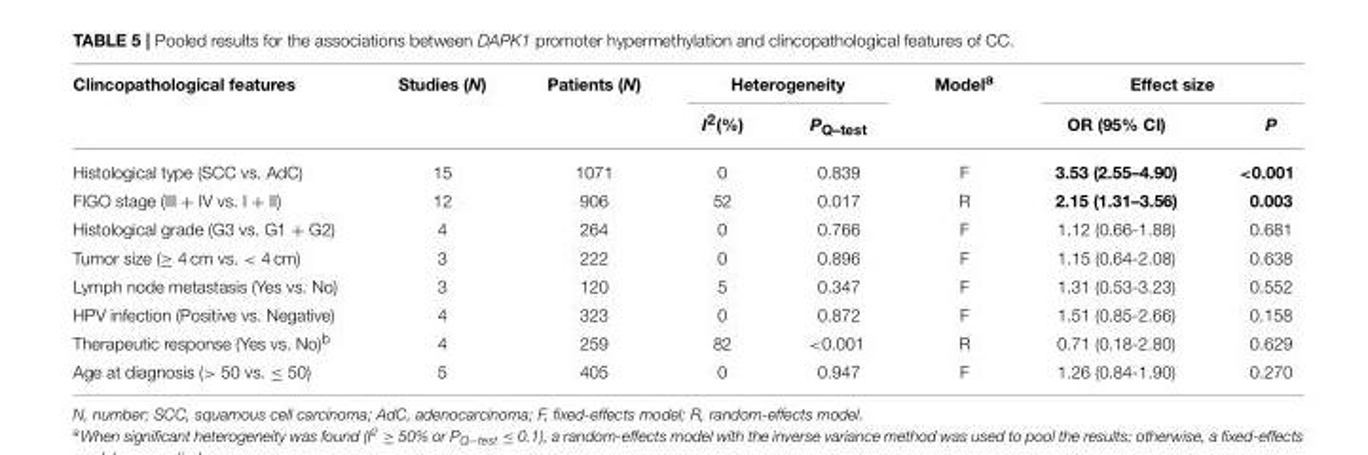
<table><thead><tr><td rowspan="2">Clincopathological features</td><td rowspan="2">Studies (N)</td><td rowspan="2">Patients (N)</td><td colspan="2">Heterogeneity</td><td rowspan="2">Model<sup>a</sup></td><td colspan="2">Effect size</td></tr><tr><td>I<sup>2</sup>(%)</td><td>P<sub>Q–test</sub></td><td>OR (95% CI)</td><td>P</td></tr></thead><tbody><tr><td>Histological type (SCC vs. AdC)</td><td>15</td><td>1071</td><td>0</td><td>0.839</td><td>F</td><td>3.53 (2.55–4.90)</td><td>&lt;0.001</td></tr><tr><td>FIGO stage (III + IV vs. I + II)</td><td>12</td><td>906</td><td>52</td><td>0.017</td><td>R</td><td>2.15 (1.31–3.56)</td><td>0.003</td></tr><tr><td>Histological grade (G3 vs. G1 + G2)</td><td>4</td><td>264</td><td>0</td><td>0.766</td><td>F</td><td>1.12 (0.66-1.88)</td><td>0.681</td></tr><tr><td>Tumor size (≥ 4 cm vs. &lt; 4 cm)</td><td>3</td><td>222</td><td>0</td><td>0.896</td><td>F</td><td>1.15 (0.64-2.08)</td><td>0.638</td></tr><tr><td>Lymph node metastasis (Yes vs. No)</td><td>3</td><td>120</td><td>5</td><td>0.347</td><td>F</td><td>1.31 (0.53-3.23)</td><td>0.552</td></tr><tr><td>HPV infection (Positive vs. Negative)</td><td>4</td><td>323</td><td>0</td><td>0.872</td><td>F</td><td>1.51 (0.85-2.66)</td><td>0.158</td></tr><tr><td>Therapeutic response (Yes vs. No)<sup>b</sup></td><td>4</td><td>259</td><td>82</td><td>&lt;0.001</td><td>R</td><td>0.71 (0.18-2.80)</td><td>0.629</td></tr><tr><td>Age at diagnosis (&gt; 50 vs. ≤ 50)</td><td>5</td><td>405</td><td>0</td><td>0.947</td><td>F</td><td>1.26 (0.84-1.90)</td><td>0.270</td></tr></tbody></table>